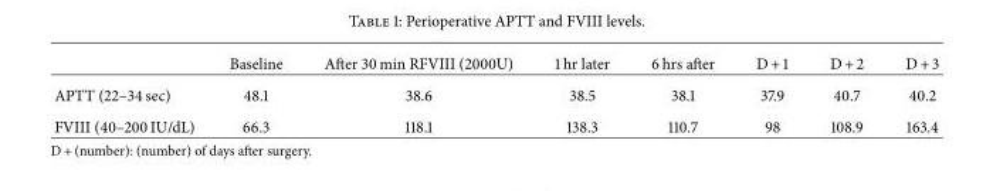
<table><thead><tr><td></td><td>Baseline</td><td>After 30 min RFVIII (2000U)</td><td>1 hr later</td><td>6 hrs after</td><td>D + 1</td><td>D + 2</td><td>D + 3</td></tr></thead><tbody><tr><td>APTT (22–34 sec)</td><td>48.1</td><td>38.6</td><td>38.5</td><td>38.1</td><td>37.9</td><td>40.7</td><td>40.2</td></tr><tr><td>FVIII (40–200 IU/dL)</td><td>66.3</td><td>118.1</td><td>138.3</td><td>110.7</td><td>98</td><td>108.9</td><td>163.4</td></tr></tbody></table>